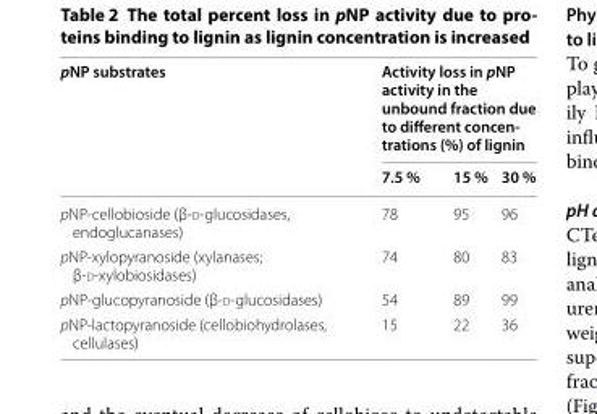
<table><thead><tr><td rowspan="2">pNP substrates</td><td colspan="3">Activity loss in pNP activity in the unbound fraction due to different concen- trations (%) of lignin</td></tr><tr><td>7.5 %</td><td>15 %</td><td>30 %</td></tr></thead><tbody><tr><td>pNP-cellobioside (β-d-glucosidases, endoglucanases)</td><td>78</td><td>95</td><td>96</td></tr><tr><td>pNP-xylopyranoside (xylanases; β-d-xylobiosidases)</td><td>74</td><td>80</td><td>83</td></tr><tr><td>pNP-glucopyranoside (β-d-glucosidases)</td><td>54</td><td>89</td><td>99</td></tr><tr><td>pNP-lactopyranoside (cellobiohydrolases, cellulases)</td><td>15</td><td>22</td><td>36</td></tr></tbody></table>